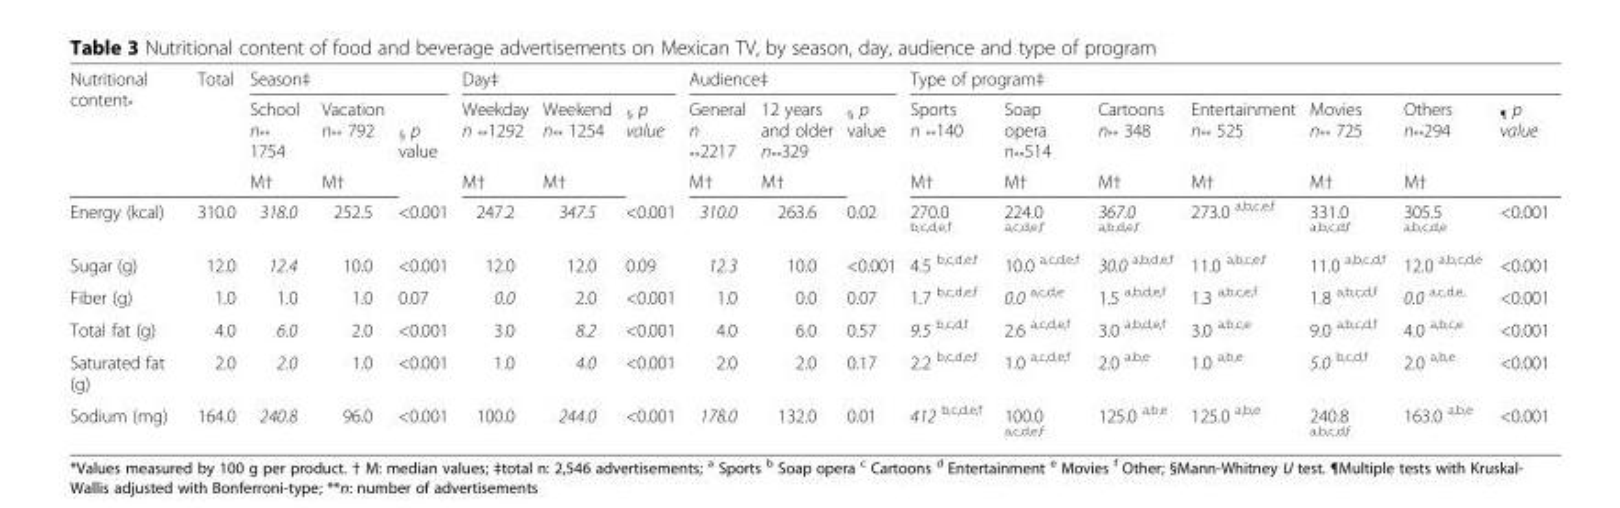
<table><thead><tr><td rowspan="3">Nutritional content<sub>*</sub></td><td rowspan="3">Total</td><td colspan="3">Season‡</td><td colspan="3">Day‡</td><td colspan="3">Audience‡</td><td colspan="7">Type of program‡</td></tr><tr><td rowspan="2">School n<sub>**</sub> 1754 M†</td><td rowspan="2">Vacation n<sub>**</sub> 792 M†</td><td rowspan="2">§ p value</td><td rowspan="2">Weekday n <sub>**</sub>1292 M†</td><td rowspan="2">Weekend n<sub>**</sub> 1254 M†</td><td rowspan="2">§ p value</td><td rowspan="2">General n <sub>**</sub>2217 M†</td><td rowspan="2">12 years and older n<sub>**</sub>329 M†</td><td rowspan="2">§ p value</td><td rowspan="2">Sports n <sub>**</sub>140 M†</td><td rowspan="2">Soap opera n<sub>**</sub>514 M†</td><td rowspan="2">Cartoons n<sub>**</sub> 348 M†</td><td rowspan="2">Entertainment n<sub>**</sub> 525 M†</td><td rowspan="2">Movies n<sub>**</sub> 725 M†</td><td rowspan="2">Others n<sub>**</sub>294 M†</td><td rowspan="2"><sub>¶</sub> p value</td></tr><tr></tr></thead><tbody><tr><td>Energy (kcal)</td><td>310.0</td><td>318.0</td><td>252.5</td><td>&lt;0.001</td><td>247.2</td><td>347.5</td><td>&lt;0.001</td><td>310.0</td><td>263.6</td><td>0.02</td><td>270.0 <sup>b,c,d,e,f</sup></td><td>224.0 <sup>a,c,d,e,f</sup></td><td>367.0 <sup>a,b,d,e,f</sup></td><td>273.0 <sup>a,b,c,e,f</sup></td><td>331.0 <sup>a,b,c,d,f</sup></td><td>305.5 <sup>a,b,c,d,e</sup></td><td>&lt;0.001</td></tr><tr><td>Sugar (g)</td><td>12.0</td><td>12.4</td><td>10.0</td><td>&lt;0.001</td><td>12.0</td><td>12.0</td><td>0.09</td><td>12.3</td><td>10.0</td><td>&lt;0.001</td><td>4.5 <sup>b,c,d,e,f</sup></td><td>10.0 <sup>a,c,d,e,f</sup></td><td>30.0 <sup>a,b,d,e,f</sup></td><td>11.0 <sup>a,b,c,e,f</sup></td><td>11.0 <sup>a,b,c,d,f</sup></td><td>12.0 <sup>a,b,c,d,e</sup></td><td>&lt;0.001</td></tr><tr><td>Fiber (g)</td><td>1.0</td><td>1.0</td><td>1.0</td><td>0.07</td><td>0.0</td><td>2.0</td><td>&lt;0.001</td><td>1.0</td><td>0.0</td><td>0.07</td><td>1.7 <sup>b,c,d,e,f</sup></td><td>0.0 <sup>a,c,d,e</sup></td><td>1.5 <sup>a,b,d,e,f</sup></td><td>1.3 <sup>a,b,c,e,f</sup></td><td>1.8 <sup>a,b,c,d,f</sup></td><td>0.0 <sup>a,c,d,e,</sup></td><td>&lt;0.001</td></tr><tr><td>Total fat (g)</td><td>4.0</td><td>6.0</td><td>2.0</td><td>&lt;0.001</td><td>3.0</td><td>8.2</td><td>&lt;0.001</td><td>4.0</td><td>6.0</td><td>0.57</td><td>9.5 <sup>b,c,d,f</sup></td><td>2.6 <sup>a,c,d,e,f</sup></td><td>3.0 <sup>a,b,d,e,f</sup></td><td>3.0 <sup>a,b,c,e</sup></td><td>9.0 <sup>a,b,c,d,f</sup></td><td>4.0 <sup>a,b,c,e</sup></td><td>&lt;0.001</td></tr><tr><td>Saturated fat (g)</td><td>2.0</td><td>2.0</td><td>1.0</td><td>&lt;0.001</td><td>1.0</td><td>4.0</td><td>&lt;0.001</td><td>2.0</td><td>2.0</td><td>0.17</td><td>2.2 <sup>b,c,d,e,f</sup></td><td>1.0 <sup>a,c,d,e,f</sup></td><td>2.0 <sup>a,b,e</sup></td><td>1.0 <sup>a,b,e</sup></td><td>5.0 <sup>b,c,d,f</sup></td><td>2.0 <sup>a,b,e</sup></td><td>&lt;0.001</td></tr><tr><td>Sodium (mg)</td><td>164.0</td><td>240.8</td><td>96.0</td><td>&lt;0.001</td><td>100.0</td><td>244.0</td><td>&lt;0.001</td><td>178.0</td><td>132.0</td><td>0.01</td><td>412 <sup>b,c,d,e,f</sup></td><td>100.0 <sup>a,c,d,e,f</sup></td><td>125.0 <sup>a,b,e</sup></td><td>125.0 <sup>a,b,e</sup></td><td>240.8 <sup>a,b,c,d,f</sup></td><td>163.0 <sup>a,b,e</sup></td><td>&lt;0.001</td></tr></tbody></table>